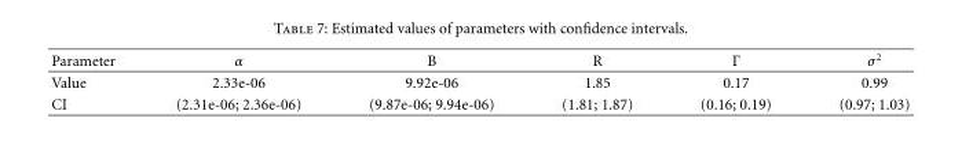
<table><thead><tr><td>Parameter</td><td>α</td><td>B</td><td>R</td><td>Γ</td><td>σ<sup>2</sup></td></tr></thead><tbody><tr><td>Value</td><td>2.33e-06</td><td>9.92e-06</td><td>1.85</td><td>0.17</td><td>0.99</td></tr><tr><td>CI</td><td>(2.31e-06; 2.36e-06)</td><td>(9.87e-06; 9.94e-06)</td><td>(1.81; 1.87)</td><td>(0.16; 0.19)</td><td>(0.97; 1.03)</td></tr></tbody></table>